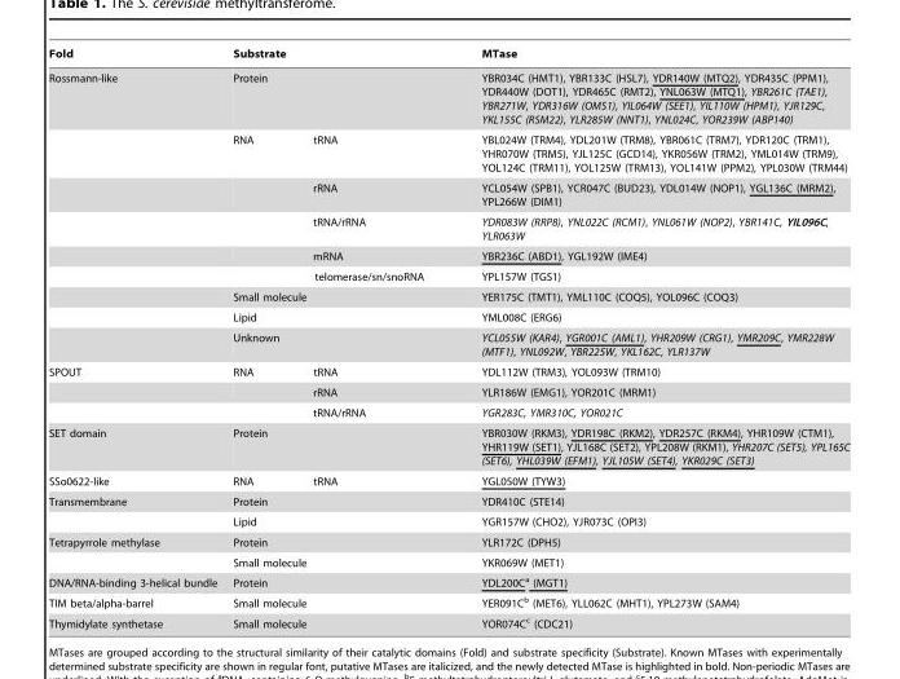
<table><thead><tr><td rowspan="3">Fold Rossmann-like</td><td rowspan="2" colspan="2">Substrate Protein</td><td rowspan="3">MTase YBR034C (HMT1), YBR133C (HSL7), YDR140W (MTQ2), YDR435C (PPM1), YDR440W (DOT1), YDR465C (RMT2), YNL063W (MTQ1), YBR261C (TAE1), YBR271W, YDR316W (OMS1), YIL064W (SEE1), YIL110W (HPM1), YJR129C, YKL155C (RSM22), YLR285W (NNT1), YNL024C, YOR239W (ABP140) YBL024W (TRM4), YDL201W (TRM8), YBR061C (TRM7), YDR120C (TRM1), YHR070W (TRM5), YJL125C (GCD14), YKR056W (TRM2), YML014W (TRM9), YOL124C (TRM11), YOL125W (TRM13), YOL141W (PPM2), YPL030W (TRM44)</td></tr><tr></tr><tr><td>RNA</td><td>tRNA</td></tr></thead><tbody><tr><td></td><td colspan="2">rRNA</td><td>YCL054W (SPB1), YCR047C (BUD23), YDL014W (NOP1), YGL136C (MRM2), YPL266W (DIM1)</td></tr><tr><td></td><td colspan="2">tRNA/rRNA</td><td>YDR083W (RRP8), YNL022C (RCM1), YNL061W (NOP2), YBR141C, YIL096C, YLR063W</td></tr><tr><td></td><td colspan="2">mRNA</td><td>YBR236C (ABD1), YGL192W (IME4)</td></tr><tr><td></td><td colspan="2">telomerase/sn/snoRNA</td><td>YPL157W (TGS1)</td></tr><tr><td></td><td colspan="2">Small molecule</td><td>YER175C (TMT1), YML110C (COQ5), YOL096C (COQ3)</td></tr><tr><td></td><td colspan="2">Lipid</td><td>YML008C (ERG6)</td></tr><tr><td></td><td colspan="2">Unknown</td><td>YCL055W (KAR4), YGR001C (AML1), YHR209W (CRG1), YMR209C, YMR228W (MTF1), YNL092W, YBR225W, YKL162C, YLR137W</td></tr><tr><td rowspan="3">SPOUT</td><td>RNA</td><td>tRNA</td><td>YDL112W (TRM3), YOL093W (TRM10)</td></tr><tr><td colspan="2">rRNA</td><td>YLR186W (EMG1), YOR201C (MRM1)</td></tr><tr><td colspan="2">tRNA/rRNA</td><td>YGR283C, YMR310C, YOR021C</td></tr><tr><td>SET domain</td><td colspan="2">Protein</td><td>YBR030W (RKM3), YDR198C (RKM2), YDR257C (RKM4), YHR109W (CTM1), YHR119W (SET1), YJL168C (SET2), YPL208W (RKM1), YHR207C (SET5), YPL165C (SET6), YHL039W (EFM1), YJL105W (SET4), YKR029C (SET3)</td></tr><tr><td>SSo0622-like</td><td>RNA</td><td>tRNA</td><td>YGL050W (TYW3)</td></tr><tr><td rowspan="2">Transmembrane</td><td colspan="2">Protein</td><td>YDR410C (STE14)</td></tr><tr><td colspan="2">Lipid</td><td>YGR157W (CHO2), YJR073C (OPI3)</td></tr><tr><td rowspan="2">Tetrapyrrole methylase</td><td colspan="2">Protein</td><td>YLR172C (DPH5)</td></tr><tr><td colspan="2">Small molecule</td><td>YKR069W (MET1)</td></tr><tr><td>DNA/RNA-binding 3-helical bundle</td><td colspan="2">Protein</td><td>YDL200Ca (MGT1)</td></tr><tr><td>TIM beta/alpha-barrel</td><td colspan="2">Small molecule</td><td>YER091C<sup>b</sup> (MET6), YLL062C (MHT1), YPL273W (SAM4)</td></tr><tr><td>Thymidylate synthetase</td><td colspan="2">Small molecule</td><td>YOR074C<sup>c</sup> (CDC21)</td></tr></tbody></table>